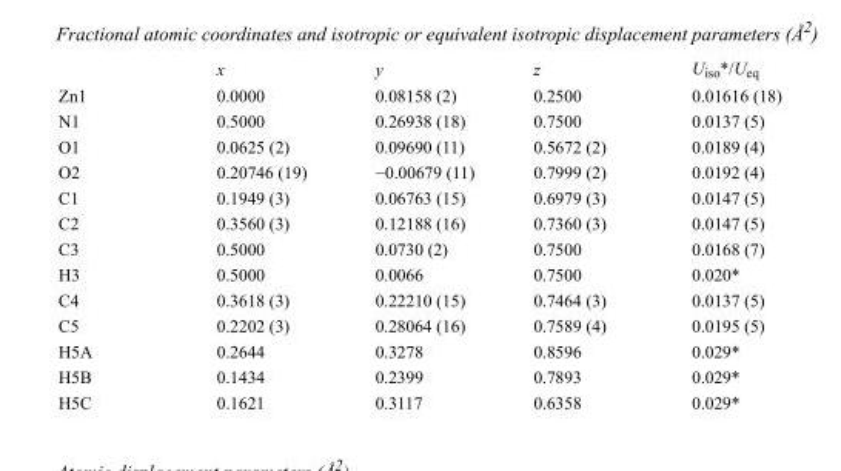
<table><thead><tr><td></td><td>x</td><td>y</td><td>z</td><td>U<sub>iso</sub>*/U<sub>eq</sub></td></tr></thead><tbody><tr><td>Zn1</td><td>0.0000</td><td>0.08158 (2)</td><td>0.2500</td><td>0.01616 (18)</td></tr><tr><td>N1</td><td>0.5000</td><td>0.26938 (18)</td><td>0.7500</td><td>0.0137 (5)</td></tr><tr><td>O1</td><td>0.0625 (2)</td><td>0.09690 (11)</td><td>0.5672 (2)</td><td>0.0189 (4)</td></tr><tr><td>O2</td><td>0.20746 (19)</td><td>−0.00679 (11)</td><td>0.7999 (2)</td><td>0.0192 (4)</td></tr><tr><td>C1</td><td>0.1949 (3)</td><td>0.06763 (15)</td><td>0.6979 (3)</td><td>0.0147 (5)</td></tr><tr><td>C2</td><td>0.3560 (3)</td><td>0.12188 (16)</td><td>0.7360 (3)</td><td>0.0147 (5)</td></tr><tr><td>C3</td><td>0.5000</td><td>0.0730 (2)</td><td>0.7500</td><td>0.0168 (7)</td></tr><tr><td>H3</td><td>0.5000</td><td>0.0066</td><td>0.7500</td><td>0.020*</td></tr><tr><td>C4</td><td>0.3618 (3)</td><td>0.22210 (15)</td><td>0.7464 (3)</td><td>0.0137 (5)</td></tr><tr><td>C5</td><td>0.2202 (3)</td><td>0.28064 (16)</td><td>0.7589 (4)</td><td>0.0195 (5)</td></tr><tr><td>H5A</td><td>0.2644</td><td>0.3278</td><td>0.8596</td><td>0.029*</td></tr><tr><td>H5B</td><td>0.1434</td><td>0.2399</td><td>0.7893</td><td>0.029*</td></tr><tr><td>H5C</td><td>0.1621</td><td>0.3117</td><td>0.6358</td><td>0.029*</td></tr></tbody></table>